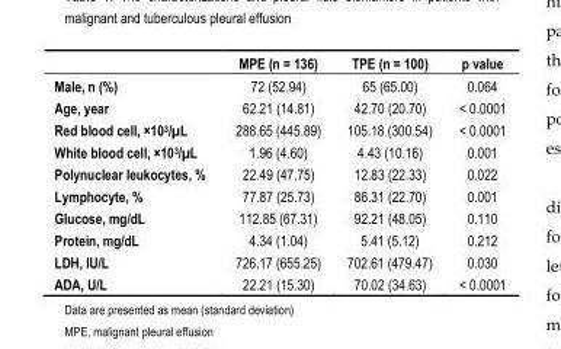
<table><thead><tr><td></td><td>MPE (n = 136)</td><td>TPE (n = 100)</td><td>p value</td></tr></thead><tbody><tr><td>Male, n (%)</td><td>72 (52.94)</td><td>65 (65.00)</td><td>0.064</td></tr><tr><td>Age, year</td><td>62.21 (14.81)</td><td>42.70 (20.70)</td><td>&lt; 0.0001</td></tr><tr><td>Red blood cell, ×10<sup>3</sup>/µL</td><td>288.65 (445.89)</td><td>105.18 (300.54)</td><td>&lt; 0.0001</td></tr><tr><td>White blood cell, ×10<sup>3</sup>/µL</td><td>1.96 (4.60)</td><td>4.43 (10.16)</td><td>0.001</td></tr><tr><td>Polynuclear leukocytes, %</td><td>22.49 (47.75)</td><td>12.83 (22.33)</td><td>0.022</td></tr><tr><td>Lymphocyte, %</td><td>77.87 (25.73)</td><td>86.31 (22.70)</td><td>0.001</td></tr><tr><td>Glucose, mg/dL</td><td>112.85 (67.31)</td><td>92.21 (48.05)</td><td>0.110</td></tr><tr><td>Protein, mg/dL</td><td>4.34 (1.04)</td><td>5.41 (5.12)</td><td>0.212</td></tr><tr><td>LDH, IU/L</td><td>726.17 (655.25)</td><td>702.61 (479.47)</td><td>0.030</td></tr><tr><td>ADA, U/L</td><td>22.21 (15.30)</td><td>70.02 (34.63)</td><td>&lt; 0.0001</td></tr></tbody></table>